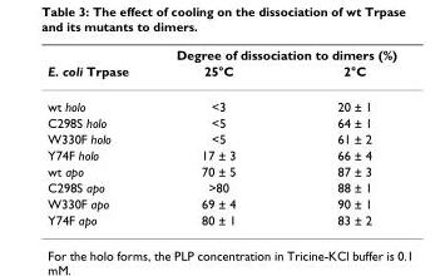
<table><thead><tr><td rowspan="2">E. coli Trpase</td><td colspan="2">Degree of dissociation to dimers (%)</td></tr><tr><td>25°C</td><td>2°C</td></tr></thead><tbody><tr><td>wt holo</td><td>&lt;3</td><td>20 ± 1</td></tr><tr><td>C298S holo</td><td>&lt;5</td><td>64 ± 1</td></tr><tr><td>W330F holo</td><td>&lt;5</td><td>61 ± 2</td></tr><tr><td>Y74F holo</td><td>17 ± 3</td><td>66 ± 4</td></tr><tr><td>wt apo</td><td>70 ± 5</td><td>87 ± 3</td></tr><tr><td>C298S apo</td><td>&gt;80</td><td>88 ± 1</td></tr><tr><td>W330F apo</td><td>69 ± 4</td><td>90 ± 1</td></tr><tr><td>Y74F apo</td><td>80 ± 1</td><td>83 ± 2</td></tr></tbody></table>